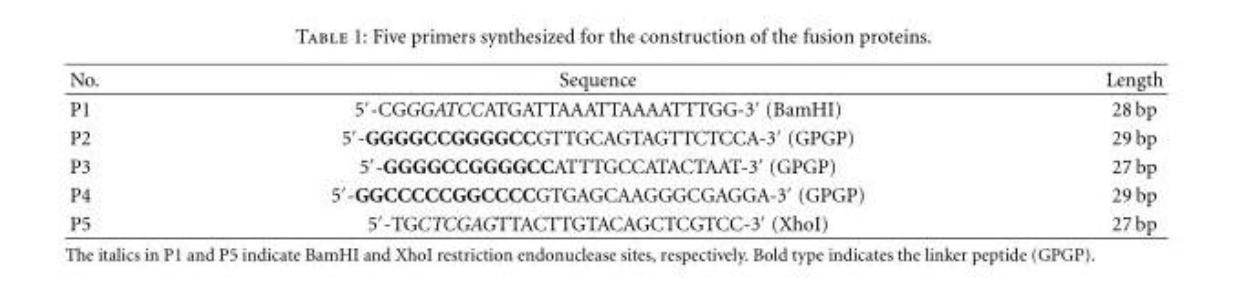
<table><thead><tr><td>No.</td><td>Sequence</td><td>Length</td></tr></thead><tbody><tr><td>P1</td><td>5′-CGGGATCCATGATTAAATTAAAATTTGG-3′ (BamHI)</td><td>28 bp</td></tr><tr><td>P2</td><td>5′-GGGGCCGGGGCCGTTGCAGTAGTTCTCCA-3′ (GPGP)</td><td>29 bp</td></tr><tr><td>P3</td><td>5′-GGGGCCGGGGCCATTTGCCATACTAAT-3′ (GPGP)</td><td>27 bp</td></tr><tr><td>P4</td><td>5′-GGCCCCCGGCCCCGTGAGCAAGGGCGAGGA-3′ (GPGP)</td><td>29 bp</td></tr><tr><td>P5</td><td>5′-TGCTCGAGTTACTTGTACAGCTCGTCC-3′ (XhoI)</td><td>27 bp</td></tr></tbody></table>